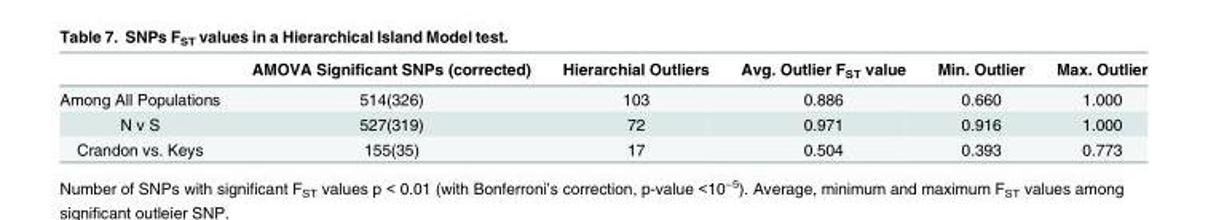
<table><thead><tr><td></td><td>AMOVA Significant SNPs (corrected)</td><td>Hierarchial Outliers</td><td>Avg. Outlier F<sub>ST</sub> value</td><td>Min. Outlier</td><td>Max. Outlier</td></tr></thead><tbody><tr><td>Among All Populations</td><td>514(326)</td><td>103</td><td>0.886</td><td>0.660</td><td>1.000</td></tr><tr><td>N v S</td><td>527(319)</td><td>72</td><td>0.971</td><td>0.916</td><td>1.000</td></tr><tr><td>Crandon vs. Keys</td><td>155(35)</td><td>17</td><td>0.504</td><td>0.393</td><td>0.773</td></tr></tbody></table>